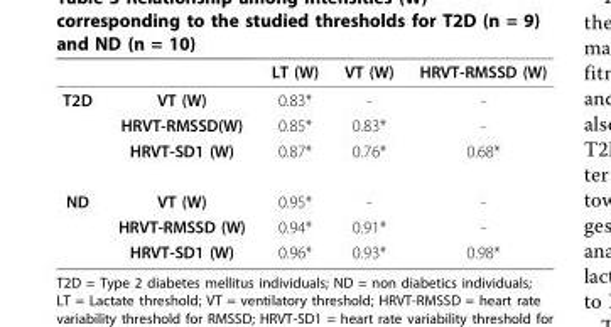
<table><thead><tr><td></td><td></td><td>LT (W)</td><td>VT (W)</td><td>HRVT-RMSSD (W)</td></tr></thead><tbody><tr><td rowspan="3">T2D</td><td>VT (W)</td><td>0.83*</td><td>-</td><td>-</td></tr><tr><td>HRVT-RMSSD(W)</td><td>0.85*</td><td>0.83*</td><td>-</td></tr><tr><td>HRVT-SD1 (W)</td><td>0.87*</td><td>0.76*</td><td>0.68*</td></tr><tr><td rowspan="3">ND</td><td>VT (W)</td><td>0.95*</td><td>-</td><td>-</td></tr><tr><td>HRVT-RMSSD (W)</td><td>0.94*</td><td>0.91*</td><td>-</td></tr><tr><td>HRVT-SD1 (W)</td><td>0.96*</td><td>0.93*</td><td>0.98*</td></tr></tbody></table>